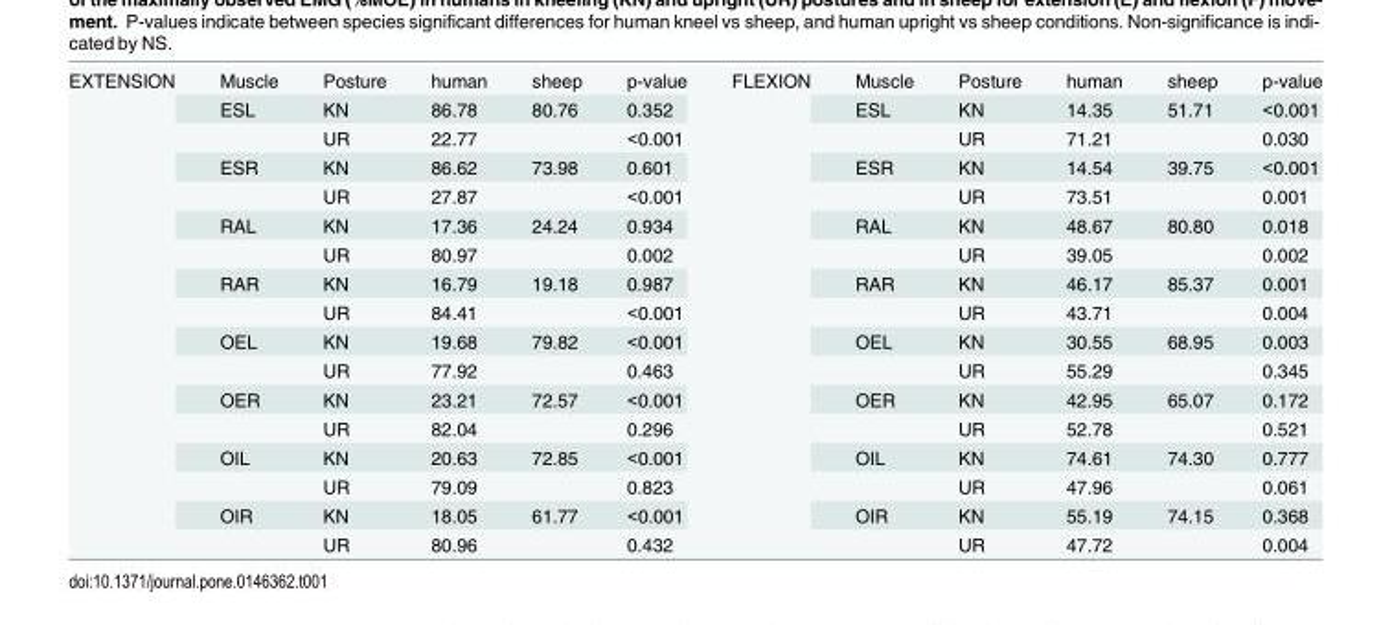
<table><tbody><tr><td rowspan="17">EXTENSION</td><td>Muscle</td><td>Posture</td><td>human</td><td>sheep</td><td>p-value</td><td rowspan="17">FLEXION</td><td>Muscle</td><td>Posture</td><td>human</td><td>sheep</td><td>p-value</td></tr><tr><td>ESL</td><td>KN</td><td>86.78</td><td>80.76</td><td>0.352</td><td>ESL</td><td>KN</td><td>14.35</td><td>51.71</td><td>&lt;0.001</td></tr><tr><td></td><td>UR</td><td>22.77</td><td></td><td>&lt;0.001</td><td></td><td>UR</td><td>71.21</td><td></td><td>0.030</td></tr><tr><td>ESR</td><td>KN</td><td>86.62</td><td>73.98</td><td>0.601</td><td>ESR</td><td>KN</td><td>14.54</td><td>39.75</td><td>&lt;0.001</td></tr><tr><td></td><td>UR</td><td>27.87</td><td></td><td>&lt;0.001</td><td></td><td>UR</td><td>73.51</td><td></td><td>0.001</td></tr><tr><td>RAL</td><td>KN</td><td>17.36</td><td>24.24</td><td>0.934</td><td>RAL</td><td>KN</td><td>48.67</td><td>80.80</td><td>0.018</td></tr><tr><td></td><td>UR</td><td>80.97</td><td></td><td>0.002</td><td></td><td>UR</td><td>39.05</td><td></td><td>0.002</td></tr><tr><td>RAR</td><td>KN</td><td>16.79</td><td>19.18</td><td>0.987</td><td>RAR</td><td>KN</td><td>46.17</td><td>85.37</td><td>0.001</td></tr><tr><td></td><td>UR</td><td>84.41</td><td></td><td>&lt;0.001</td><td></td><td>UR</td><td>43.71</td><td></td><td>0.004</td></tr><tr><td>OEL</td><td>KN</td><td>19.68</td><td>79.82</td><td>&lt;0.001</td><td>OEL</td><td>KN</td><td>30.55</td><td>68.95</td><td>0.003</td></tr><tr><td></td><td>UR</td><td>77.92</td><td></td><td>0.463</td><td></td><td>UR</td><td>55.29</td><td></td><td>0.345</td></tr><tr><td>OER</td><td>KN</td><td>23.21</td><td>72.57</td><td>&lt;0.001</td><td>OER</td><td>KN</td><td>42.95</td><td>65.07</td><td>0.172</td></tr><tr><td></td><td>UR</td><td>82.04</td><td></td><td>0.296</td><td></td><td>UR</td><td>52.78</td><td></td><td>0.521</td></tr><tr><td>OIL</td><td>KN</td><td>20.63</td><td>72.85</td><td>&lt;0.001</td><td>OIL</td><td>KN</td><td>74.61</td><td>74.30</td><td>0.777</td></tr><tr><td></td><td>UR</td><td>79.09</td><td></td><td>0.823</td><td></td><td>UR</td><td>47.96</td><td></td><td>0.061</td></tr><tr><td>OIR</td><td>KN</td><td>18.05</td><td>61.77</td><td>&lt;0.001</td><td>OIR</td><td>KN</td><td>55.19</td><td>74.15</td><td>0.368</td></tr><tr><td></td><td>UR</td><td>80.96</td><td></td><td>0.432</td><td></td><td>UR</td><td>47.72</td><td></td><td>0.004</td></tr></tbody></table>